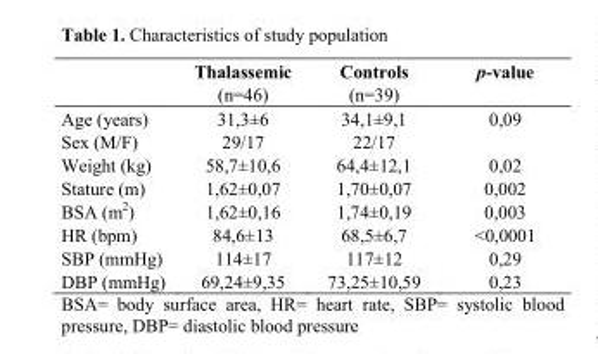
<table><thead><tr><td></td><td>Thalassemic (n=46)</td><td>Controls (n=39)</td><td>p-value</td></tr></thead><tbody><tr><td>Age (years)</td><td>31,3±6</td><td>34,1±9,1</td><td>0,09</td></tr><tr><td>Sex (M/F)</td><td>29/17</td><td>22/17</td><td></td></tr><tr><td>Weight (kg)</td><td>58,7±10,6</td><td>64,4±12,1</td><td>0,02</td></tr><tr><td>Stature (m)</td><td>1,62±0,07</td><td>1,70±0,07</td><td>0,002</td></tr><tr><td>BSA (m<sup>2</sup>)</td><td>1,62±0,16</td><td>1,74±0,19</td><td>0,003</td></tr><tr><td>HR (bpm)</td><td>84,6±13</td><td>68,5±6,7</td><td>&lt;0,0001</td></tr><tr><td>SBP (mmHg)</td><td>114±17</td><td>117±12</td><td>0,29</td></tr><tr><td>DBP (mmHg)</td><td>69,24±9,35</td><td>73,25±10,59</td><td>0,23</td></tr></tbody></table>